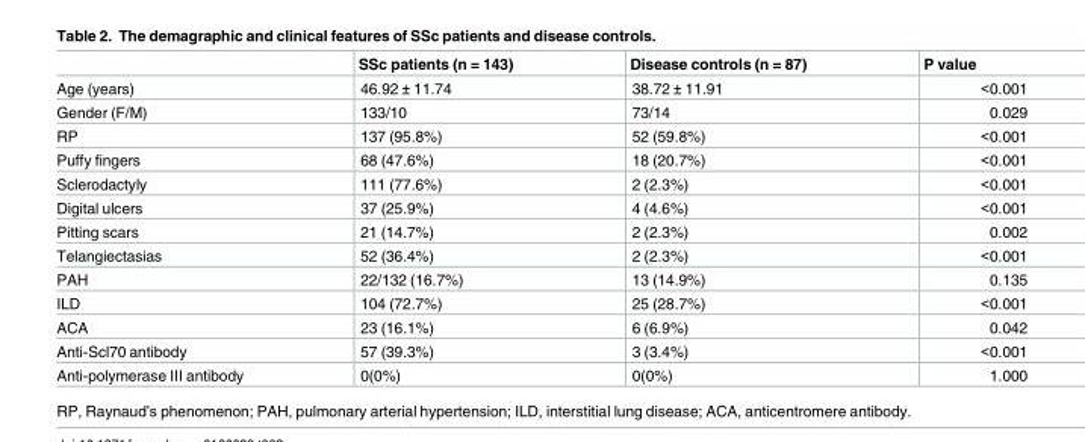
<table><thead><tr><td></td><td>SSc patients (n = 143)</td><td>Disease controls (n = 87)</td><td>P value</td></tr></thead><tbody><tr><td>Age (years)</td><td>46.92 ± 11.74</td><td>38.72 ± 11.91</td><td>&lt;0.001</td></tr><tr><td>Gender (F/M)</td><td>133/10</td><td>73/14</td><td>0.029</td></tr><tr><td>RP</td><td>137 (95.8%)</td><td>52 (59.8%)</td><td>&lt;0.001</td></tr><tr><td>Puffy fingers</td><td>68 (47.6%)</td><td>18 (20.7%)</td><td>&lt;0.001</td></tr><tr><td>Sclerodactyly</td><td>111 (77.6%)</td><td>2 (2.3%)</td><td>&lt;0.001</td></tr><tr><td>Digital ulcers</td><td>37 (25.9%)</td><td>4 (4.6%)</td><td>&lt;0.001</td></tr><tr><td>Pitting scars</td><td>21 (14.7%)</td><td>2 (2.3%)</td><td>0.002</td></tr><tr><td>Telangiectasias</td><td>52 (36.4%)</td><td>2 (2.3%)</td><td>&lt;0.001</td></tr><tr><td>PAH</td><td>22/132 (16.7%)</td><td>13 (14.9%)</td><td>0.135</td></tr><tr><td>ILD</td><td>104 (72.7%)</td><td>25 (28.7%)</td><td>&lt;0.001</td></tr><tr><td>ACA</td><td>23 (16.1%)</td><td>6 (6.9%)</td><td>0.042</td></tr><tr><td>Anti-Scl70 antibody</td><td>57 (39.3%)</td><td>3 (3.4%)</td><td>&lt;0.001</td></tr><tr><td>Anti-polymerase III antibody</td><td>0(0%)</td><td>0(0%)</td><td>1.000</td></tr></tbody></table>